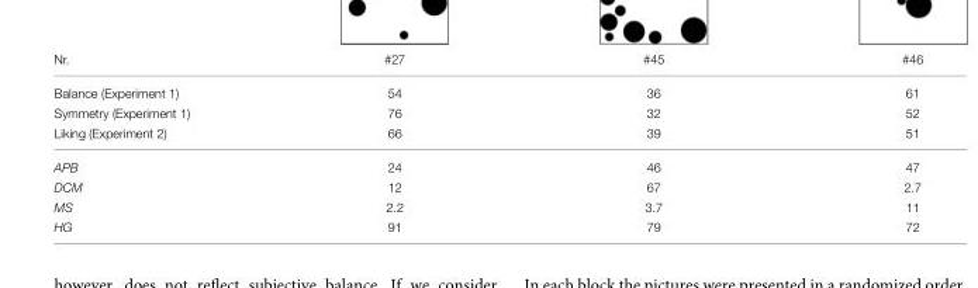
<table><thead><tr><td>Nr.</td><td>#27</td><td>#45</td><td>#46</td></tr></thead><tbody><tr><td>Balance (Experiment 1)</td><td>54</td><td>36</td><td>61</td></tr><tr><td>Symmetry (Experiment 1)</td><td>76</td><td>32</td><td>52</td></tr><tr><td>Liking (Experiment 2)</td><td>66</td><td>39</td><td>51</td></tr><tr><td>APB</td><td>24</td><td>46</td><td>47</td></tr><tr><td>DCM</td><td>12</td><td>67</td><td>2.7</td></tr><tr><td>MS</td><td>2.2</td><td>3.7</td><td>11</td></tr><tr><td>HG</td><td>91</td><td>79</td><td>72</td></tr></tbody></table>